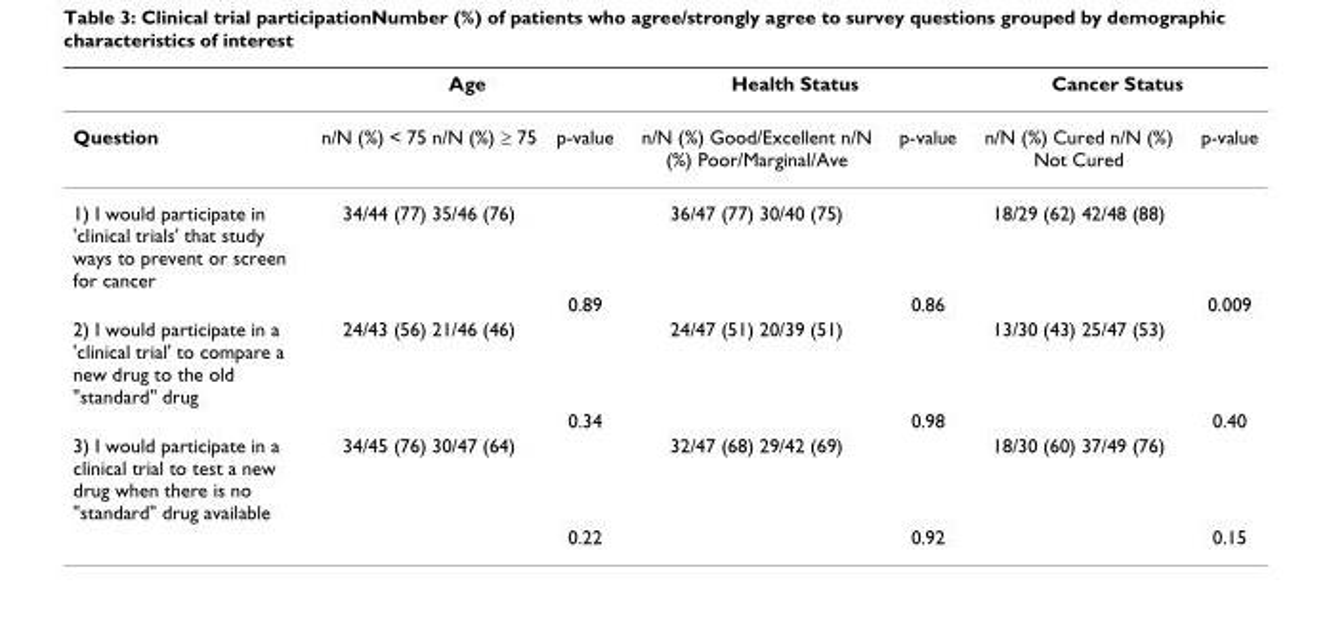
<table><thead><tr><td rowspan="2">Question</td><td colspan="2">Age</td><td colspan="2">Health Status</td><td colspan="2">Cancer Status</td></tr><tr><td>n/N (%) &lt; 75 n/N (%) ≥ 75</td><td>p-value</td><td>n/N (%) Good/Excellent n/N (%) Poor/Marginal/Ave</td><td>p-value</td><td>n/N (%) Cured n/N (%) Not Cured</td><td>p-value</td></tr></thead><tbody><tr><td rowspan="2">1) I would participate in &#x27;clinical trials&#x27; that study ways to prevent or screen for cancer</td><td>34/44 (77) 35/46 (76)</td><td></td><td>36/47 (77) 30/40 (75)</td><td></td><td>18/29 (62) 42/48 (88)</td><td></td></tr><tr><td></td><td>0.89</td><td></td><td>0.86</td><td></td><td>0.009</td></tr><tr><td rowspan="2">2) I would participate in a &#x27;clinical trial&#x27; to compare a new drug to the old &quot;standard&quot; drug</td><td>24/43 (56) 21/46 (46)</td><td></td><td>24/47 (51) 20/39 (51)</td><td></td><td>13/30 (43) 25/47 (53)</td><td></td></tr><tr><td></td><td>0.34</td><td></td><td>0.98</td><td></td><td>0.40</td></tr><tr><td rowspan="2">3) I would participate in a clinical trial to test a new drug when there is no &quot;standard&quot; drug available</td><td>34/45 (76) 30/47 (64)</td><td></td><td>32/47 (68) 29/42 (69)</td><td></td><td>18/30 (60) 37/49 (76)</td><td></td></tr><tr><td></td><td>0.22</td><td></td><td>0.92</td><td></td><td>0.15</td></tr></tbody></table>